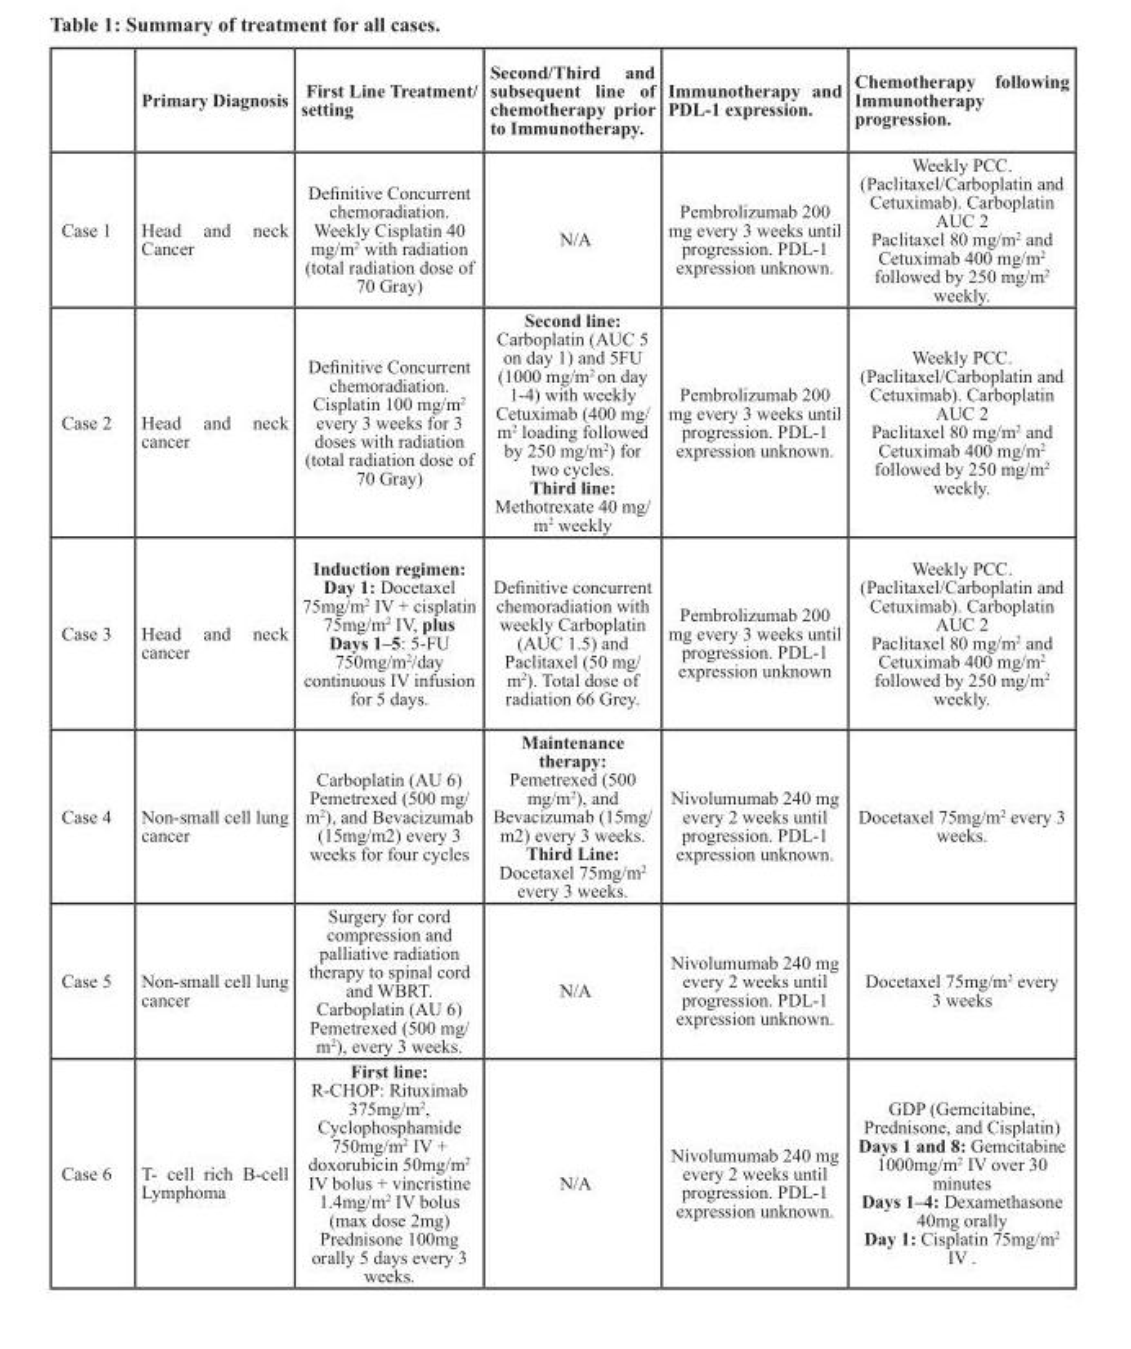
<table><thead><tr><td></td><td>Primary Diagnosis</td><td>First Line Treatment/ setting</td><td>Second/Third and subsequent line of chemotherapy prior to Immunotherapy.</td><td>Immunotherapy and PDL-1 expression.</td><td>Chemotherapy following Immunotherapy progression.</td></tr></thead><tbody><tr><td>Case 1</td><td>Head and neck Cancer</td><td>Definitive Concurrent chemoradiation. Weekly Cisplatin 40 mg/m<sup>2</sup> with radiation (total radiation dose of 70 Gray)</td><td>N/A</td><td>Pembrolizumab 200 mg every 3 weeks until progression. PDL-1 expression unknown.</td><td>Weekly PCC. (Paclitaxel/Carboplatin and Cetuximab). Carboplatin AUC 2 Paclitaxel 80 mg/m<sup>2</sup> and Cetuximab 400 mg/m<sup>2</sup> followed by 250 mg/m<sup>2</sup> weekly.</td></tr><tr><td>Case 2</td><td>Head and neck cancer</td><td>Definitive Concurrent chemoradiation. Cisplatin 100 mg/m<sup>2</sup> every 3 weeks for 3 doses with radiation (total radiation dose of 70 Gray)</td><td>Second line: Carboplatin (AUC 5 on day 1) and 5FU (1000 mg/m<sup>2</sup> on day 1-4) with weekly Cetuximab (400 mg/ m<sup>2</sup> loading followed by 250 mg/m<sup>2</sup>) for two cycles. Third line: Methotrexate 40 mg/ m<sup>2</sup> weekly</td><td>Pembrolizumab 200 mg every 3 weeks until progression. PDL-1 expression unknown.</td><td>Weekly PCC. (Paclitaxel/Carboplatin and Cetuximab). Carboplatin AUC 2 Paclitaxel 80 mg/m<sup>2</sup> and Cetuximab 400 mg/m<sup>2</sup> followed by 250 mg/m<sup>2</sup> weekly.</td></tr><tr><td>Case 3</td><td>Head and neck cancer</td><td>Induction regimen: Day 1: Docetaxel 75mg/m<sup>2</sup> IV + cisplatin 75mg/m<sup>2</sup> IV, plus Days 1–5: 5-FU 750mg/m<sup>2</sup>/day continuous IV infusion for 5 days.</td><td>Definitive concurrent chemoradiation with weekly Carboplatin (AUC 1.5) and Paclitaxel (50 mg/ m<sup>2</sup>). Total dose of radiation 66 Grey.</td><td>Pembrolizumab 200 mg every 3 weeks until progression. PDL-1 expression unknown</td><td>Weekly PCC. (Paclitaxel/Carboplatin and Cetuximab). Carboplatin AUC 2 Paclitaxel 80 mg/m<sup>2</sup> and Cetuximab 400 mg/m<sup>2</sup> followed by 250 mg/m<sup>2</sup> weekly.</td></tr><tr><td>Case 4</td><td>Non-small cell lung cancer</td><td>Carboplatin (AU 6) Pemetrexed (500 mg/ m<sup>2</sup>), and Bevacizumab (15mg/m2) every 3 weeks for four cycles</td><td>Maintenance therapy: Pemetrexed (500 mg/m<sup>2</sup>), and Bevacizumab (15mg/ m2) every 3 weeks. Third Line: Docetaxel 75mg/m<sup>2</sup> every 3 weeks.</td><td>Nivolumumab 240 mg every 2 weeks until progression. PDL-1 expression unknown.</td><td>Docetaxel 75mg/m<sup>2</sup> every 3 weeks.</td></tr><tr><td>Case 5</td><td>Non-small cell lung cancer</td><td>Surgery for cord compression and palliative radiation therapy to spinal cord and WBRT. Carboplatin (AU 6) Pemetrexed (500 mg/ m<sup>2</sup>), every 3 weeks.</td><td>N/A</td><td>Nivolumumab 240 mg every 2 weeks until progression. PDL-1 expression unknown.</td><td>Docetaxel 75mg/m<sup>2</sup> every 3 weeks</td></tr><tr><td>Case 6</td><td>T- cell rich B-cell Lymphoma</td><td>First line: R-CHOP: Rituximab 375mg/m<sup>2</sup>, Cyclophosphamide 750mg/m<sup>2</sup> IV + doxorubicin 50mg/m<sup>2</sup> IV bolus + vincristine 1.4mg/m<sup>2</sup> IV bolus (max dose 2mg) Prednisone 100mg orally 5 days every 3 weeks.</td><td>N/A</td><td>Nivolumumab 240 mg every 2 weeks until progression. PDL-1 expression unknown.</td><td>GDP (Gemcitabine, Prednisone, and Cisplatin) Days 1 and 8: Gemcitabine 1000mg/m<sup>2</sup> IV over 30 minutes Days 1–4: Dexamethasone 40mg orally Day 1: Cisplatin 75mg/m<sup>2</sup> IV .</td></tr></tbody></table>